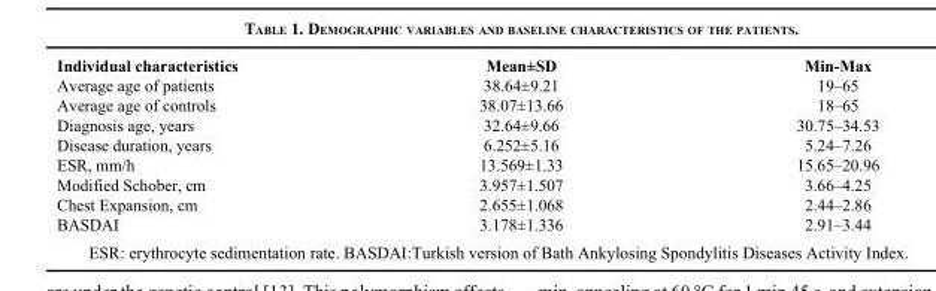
<table><thead><tr><td>Individual characteristics</td><td>Mean±SD</td><td>Min-Max</td></tr></thead><tbody><tr><td>Average age of patients</td><td>38.64±9.21</td><td>19–65</td></tr><tr><td>Average age of controls</td><td>38.07±13.66</td><td>18–65</td></tr><tr><td>Diagnosis age, years</td><td>32.64±9.66</td><td>30.75–34.53</td></tr><tr><td>Disease duration, years</td><td>6.252±5.16</td><td>5.24–7.26</td></tr><tr><td>ESR, mm/h</td><td>13.569±1.33</td><td>15.65–20.96</td></tr><tr><td>Modified Schober, cm</td><td>3.957±1.507</td><td>3.66–4.25</td></tr><tr><td>Chest Expansion, cm</td><td>2.655±1.068</td><td>2.44–2.86</td></tr><tr><td>BASDAI</td><td>3.178±1.336</td><td>2.91–3.44</td></tr></tbody></table>